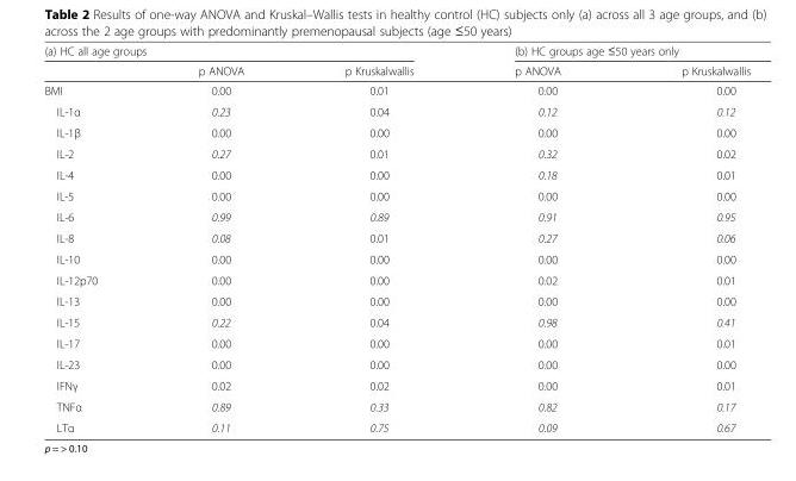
<table><thead><tr><td colspan="3">(a) HC all age groups</td><td colspan="2">(b) HC groups age ≤50 years only</td></tr><tr><td></td><td>p ANOVA</td><td>p Kruskalwallis</td><td>p ANOVA</td><td>p Kruskalwallis</td></tr></thead><tbody><tr><td>BMI</td><td>0.00</td><td>0.01</td><td>0.00</td><td>0.00</td></tr><tr><td>IL-1α</td><td>0.23</td><td>0.04</td><td>0.12</td><td>0.12</td></tr><tr><td>IL-1β</td><td>0.00</td><td>0.00</td><td>0.00</td><td>0.00</td></tr><tr><td>IL-2</td><td>0.27</td><td>0.01</td><td>0.32</td><td>0.02</td></tr><tr><td>IL-4</td><td>0.00</td><td>0.00</td><td>0.18</td><td>0.01</td></tr><tr><td>IL-5</td><td>0.00</td><td>0.00</td><td>0.00</td><td>0.00</td></tr><tr><td>IL-6</td><td>0.99</td><td>0.89</td><td>0.91</td><td>0.95</td></tr><tr><td>IL-8</td><td>0.08</td><td>0.01</td><td>0.27</td><td>0.06</td></tr><tr><td>IL-10</td><td>0.00</td><td>0.00</td><td>0.00</td><td>0.00</td></tr><tr><td>IL-12p70</td><td>0.00</td><td>0.00</td><td>0.02</td><td>0.01</td></tr><tr><td>IL-13</td><td>0.00</td><td>0.00</td><td>0.00</td><td>0.00</td></tr><tr><td>IL-15</td><td>0.22</td><td>0.04</td><td>0.98</td><td>0.41</td></tr><tr><td>IL-17</td><td>0.00</td><td>0.00</td><td>0.00</td><td>0.01</td></tr><tr><td>IL-23</td><td>0.00</td><td>0.00</td><td>0.00</td><td>0.00</td></tr><tr><td>IFNγ</td><td>0.02</td><td>0.02</td><td>0.00</td><td>0.01</td></tr><tr><td>TNFα</td><td>0.89</td><td>0.33</td><td>0.82</td><td>0.17</td></tr><tr><td>LTα</td><td>0.11</td><td>0.75</td><td>0.09</td><td>0.67</td></tr></tbody></table>